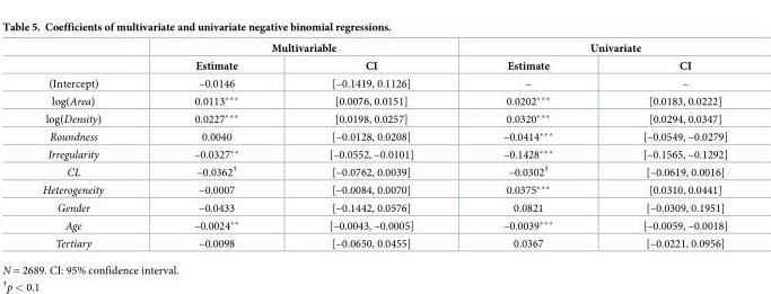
<table><thead><tr><td rowspan="2"></td><td colspan="2">Multivariable</td><td colspan="2">Univariate</td></tr><tr><td>Estimate</td><td>CI</td><td>Estimate</td><td>CI</td></tr></thead><tbody><tr><td>(Intercept)</td><td>–0.0146</td><td>[–0.1419, 0.1126]</td><td>–</td><td>–</td></tr><tr><td>log(Area)</td><td>0.0113***</td><td>[0.0076, 0.0151]</td><td>0.0202***</td><td>[0.0183, 0.0222]</td></tr><tr><td>log(Density)</td><td>0.0227***</td><td>[0.0198, 0.0257]</td><td>0.0320***</td><td>[0.0294, 0.0347]</td></tr><tr><td>Roundness</td><td>0.0040</td><td>[–0.0128, 0.0208]</td><td>–0.0414***</td><td>[–0.0549, –0.0279]</td></tr><tr><td>Irregularity</td><td>–0.0327**</td><td>[–0.0552, –0.0101]</td><td>–0.1428***</td><td>[–0.1565, –0.1292]</td></tr><tr><td>CL</td><td>–0.0362<sup>†</sup></td><td>[–0.0762, 0.0039]</td><td>–0.0302<sup>†</sup></td><td>[–0.0619, 0.0016]</td></tr><tr><td>Heterogeneity</td><td>–0.0007</td><td>[–0.0084, 0.0070]</td><td>0.0375***</td><td>[0.0310, 0.0441]</td></tr><tr><td>Gender</td><td>–0.0433</td><td>[–0.1442, 0.0576]</td><td>0.0821</td><td>[–0.0309, 0.1951]</td></tr><tr><td>Age</td><td>–0.0024**</td><td>[–0.0043, –0.0005]</td><td>–0.0039***</td><td>[–0.0059, –0.0018]</td></tr><tr><td>Tertiary</td><td>–0.0098</td><td>[–0.0650, 0.0455]</td><td>0.0367</td><td>[–0.0221, 0.0956]</td></tr></tbody></table>